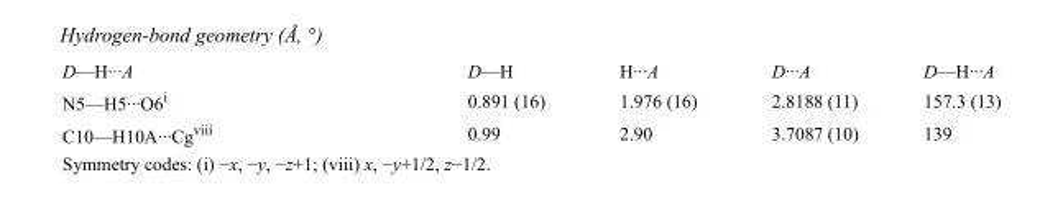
<table><tbody><tr><td>D—H···A</td><td>D—H</td><td>H···A</td><td>D···A</td><td>D—H···A</td></tr><tr><td>N5—H5···O6<sup>i</sup></td><td>0.891 (16)</td><td>1.976 (16)</td><td>2.8188 (11)</td><td>157.3 (13)</td></tr><tr><td>C10—H10A···Cg<sup>viii</sup></td><td>0.99</td><td>2.90</td><td>3.7087 (10)</td><td>139</td></tr></tbody></table>